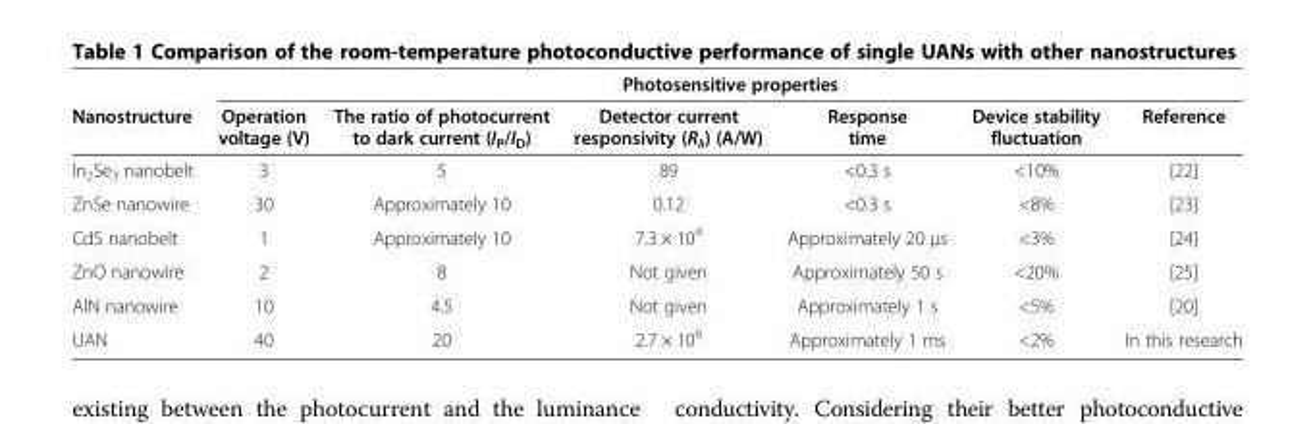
<table><thead><tr><td rowspan="2">Nanostructure</td><td colspan="6">Photosensitive properties</td></tr><tr><td>Operation voltage (V)</td><td>The ratio of photocurrent to dark current (I<sub>P</sub>/I<sub>D</sub>)</td><td>Detector current responsivity (R<sub>λ</sub>) (A/W)</td><td>Response time</td><td>Device stability fluctuation</td><td>Reference</td></tr></thead><tbody><tr><td>In<sub>2</sub>Se<sub>3</sub> nanobelt</td><td>3</td><td>5</td><td>89</td><td>&lt;0.3 s</td><td>&lt;10%</td><td>[22]</td></tr><tr><td>ZnSe nanowire</td><td>30</td><td>Approximately 10</td><td>0.12</td><td>&lt;0.3 s</td><td>&lt;8%</td><td>[23]</td></tr><tr><td>CdS nanobelt</td><td>1</td><td>Approximately 10</td><td>7.3 × 10<sup>4</sup></td><td>Approximately 20 μs</td><td>&lt;3%</td><td>[24]</td></tr><tr><td>ZnO nanowire</td><td>2</td><td>8</td><td>Not given</td><td>Approximately 50 s</td><td>&lt;20%</td><td>[25]</td></tr><tr><td>AlN nanowire</td><td>10</td><td>4.5</td><td>Not given</td><td>Approximately 1 s</td><td>&lt;5%</td><td>[20]</td></tr><tr><td>UAN</td><td>40</td><td>20</td><td>2.7 × 10<sup>6</sup></td><td>Approximately 1 ms</td><td>&lt;2%</td><td>In this research</td></tr></tbody></table>